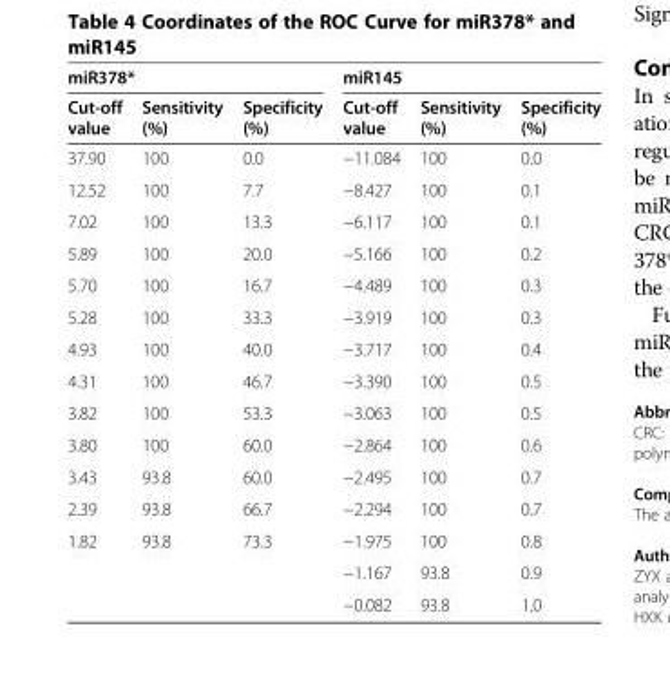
<table><thead><tr><td colspan="3">miR378*</td><td colspan="3">miR145</td></tr><tr><td>Cut-off value</td><td>Sensitivity (%)</td><td>Specificity (%)</td><td>Cut-off value</td><td>Sensitivity (%)</td><td>Specificity (%)</td></tr></thead><tbody><tr><td>37.90</td><td>100</td><td>0.0</td><td>−11.084</td><td>100</td><td>0.0</td></tr><tr><td>12.52</td><td>100</td><td>7.7</td><td>−8.427</td><td>100</td><td>0.1</td></tr><tr><td>7.02</td><td>100</td><td>13.3</td><td>−6.117</td><td>100</td><td>0.1</td></tr><tr><td>5.89</td><td>100</td><td>20.0</td><td>−5.166</td><td>100</td><td>0.2</td></tr><tr><td>5.70</td><td>100</td><td>16.7</td><td>−4.489</td><td>100</td><td>0.3</td></tr><tr><td>5.28</td><td>100</td><td>33.3</td><td>−3.919</td><td>100</td><td>0.3</td></tr><tr><td>4.93</td><td>100</td><td>40.0</td><td>−3.717</td><td>100</td><td>0.4</td></tr><tr><td>4.31</td><td>100</td><td>46.7</td><td>−3.390</td><td>100</td><td>0.5</td></tr><tr><td>3.82</td><td>100</td><td>53.3</td><td>−3.063</td><td>100</td><td>0.5</td></tr><tr><td>3.80</td><td>100</td><td>60.0</td><td>−2.864</td><td>100</td><td>0.6</td></tr><tr><td>3.43</td><td>93.8</td><td>60.0</td><td>−2.495</td><td>100</td><td>0.7</td></tr><tr><td>2.39</td><td>93.8</td><td>66.7</td><td>−2.294</td><td>100</td><td>0.7</td></tr><tr><td rowspan="3">1.82</td><td>93.8</td><td>73.3</td><td>−1.975</td><td>100</td><td>0.8</td></tr><tr><td></td><td></td><td>−1.167</td><td>93.8</td><td>0.9</td></tr><tr><td></td><td></td><td>−0.082</td><td>93.8</td><td>1.0</td></tr></tbody></table>